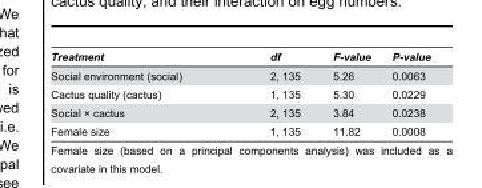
<table><thead><tr><td>Treatment</td><td>df</td><td>F-value</td><td>P-value</td></tr></thead><tbody><tr><td>Social environment (social)</td><td>2, 135</td><td>5.26</td><td>0.0063</td></tr><tr><td>Cactus quality (cactus)</td><td>1, 135</td><td>5.30</td><td>0.0229</td></tr><tr><td>Social × cactus</td><td>2, 135</td><td>3.84</td><td>0.0238</td></tr><tr><td>Female size</td><td>1, 135</td><td>11.82</td><td>0.0008</td></tr></tbody></table>